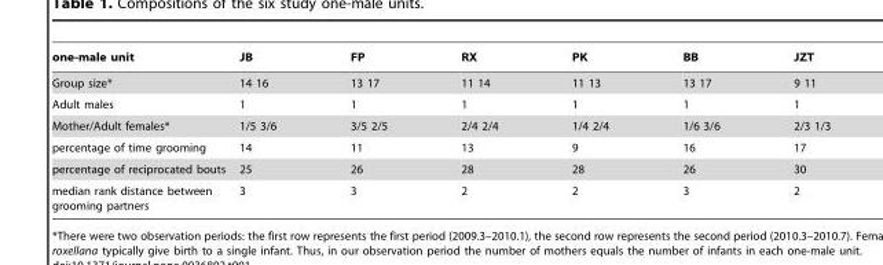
<table><thead><tr><td>one-male unit</td><td>JB</td><td>FP</td><td>RX</td><td>PK</td><td>BB</td><td>JZT</td></tr></thead><tbody><tr><td>Group size*</td><td>14 16</td><td>13 17</td><td>11 14</td><td>11 13</td><td>13 17</td><td>9 11</td></tr><tr><td>Adult males</td><td>1</td><td>1</td><td>1</td><td>1</td><td>1</td><td>1</td></tr><tr><td>Mother/Adult females*</td><td>1/5 3/6</td><td>3/5 2/5</td><td>2/4 2/4</td><td>1/4 2/4</td><td>1/6 3/6</td><td>2/3 1/3</td></tr><tr><td>percentage of time grooming</td><td>14</td><td>11</td><td>13</td><td>9</td><td>16</td><td>17</td></tr><tr><td>percentage of reciprocated bouts</td><td>25</td><td>26</td><td>28</td><td>28</td><td>26</td><td>30</td></tr><tr><td>median rank distance between grooming partners</td><td>3</td><td>3</td><td>2</td><td>2</td><td>3</td><td>2</td></tr></tbody></table>